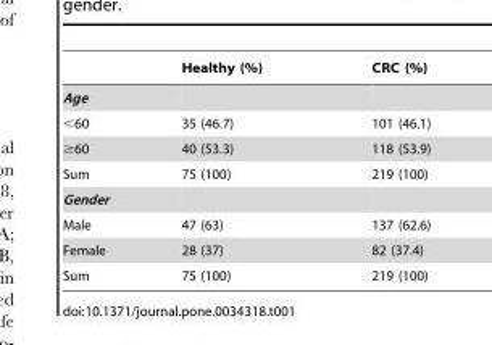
<table><thead><tr><td></td><td>Healthy (%)</td><td>CRC (%)</td></tr></thead><tbody><tr><td colspan="3">Age</td></tr><tr><td>&lt;60</td><td>35 (46.7)</td><td>101 (46.1)</td></tr><tr><td>≥60</td><td>40 (53.3)</td><td>118 (53.9)</td></tr><tr><td>Sum</td><td>75 (100)</td><td>219 (100)</td></tr><tr><td colspan="3">Gender</td></tr><tr><td>Male</td><td>47 (63)</td><td>137 (62.6)</td></tr><tr><td>Female</td><td>28 (37)</td><td>82 (37.4)</td></tr><tr><td>Sum</td><td>75 (100)</td><td>219 (100)</td></tr></tbody></table>